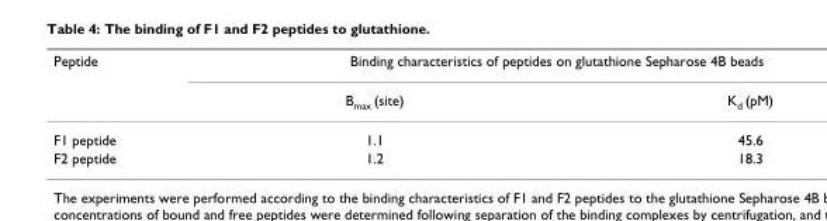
<table><thead><tr><td rowspan="2">Peptide</td><td colspan="2">Binding characteristics of peptides on glutathione Sepharose 4B beads</td></tr><tr><td>B<sub>max</sub> (site)</td><td>K<sub>d</sub> (pM)</td></tr></thead><tbody><tr><td>F1 peptide</td><td>1.1</td><td>45.6</td></tr><tr><td>F2 peptide</td><td>1.2</td><td>18.3</td></tr></tbody></table>